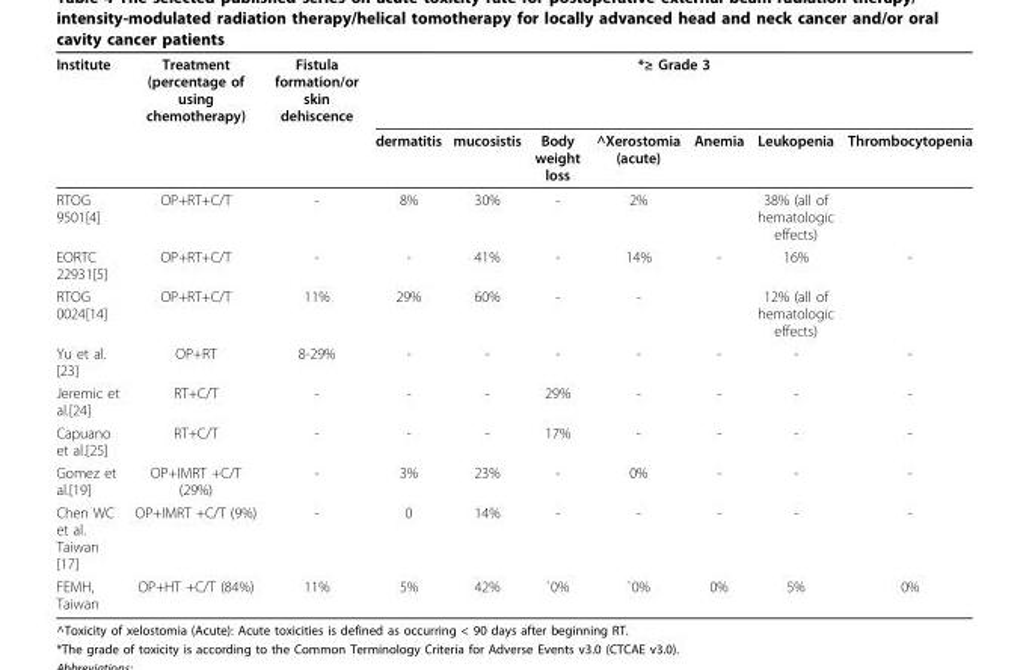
<table><thead><tr><td rowspan="2">Institute</td><td rowspan="2">Treatment (percentage of using chemotherapy)</td><td rowspan="2">Fistula formation/or skin dehiscence</td><td colspan="7">*≥ Grade 3</td></tr><tr><td>dermatitis</td><td>mucosistis</td><td>Body weight loss</td><td>^Xerostomia (acute)</td><td>Anemia</td><td>Leukopenia</td><td>Thrombocytopenia</td></tr></thead><tbody><tr><td>RTOG 9501[4]</td><td>OP+RT+C/T</td><td>-</td><td>8%</td><td>30%</td><td>-</td><td>2%</td><td></td><td>38% (all of hematologic effects)</td><td></td></tr><tr><td>EORTC 22931[5]</td><td>OP+RT+C/T</td><td>-</td><td>-</td><td>41%</td><td>-</td><td>14%</td><td>-</td><td>16%</td><td>-</td></tr><tr><td>RTOG 0024[14]</td><td>OP+RT+C/T</td><td>11%</td><td>29%</td><td>60%</td><td>-</td><td>-</td><td></td><td>12% (all of hematologic effects)</td><td></td></tr><tr><td>Yu et al. [23]</td><td>OP+RT</td><td>8-29%</td><td>-</td><td>-</td><td>-</td><td>-</td><td>-</td><td>-</td><td>-</td></tr><tr><td>Jeremic et al.[24]</td><td>RT+C/T</td><td>-</td><td>-</td><td>-</td><td>29%</td><td>-</td><td>-</td><td>-</td><td>-</td></tr><tr><td>Capuano et al.[25]</td><td>RT+C/T</td><td>-</td><td>-</td><td>-</td><td>17%</td><td>-</td><td>-</td><td>-</td><td>-</td></tr><tr><td>Gomez et al.[19]</td><td>OP+IMRT +C/T (29%)</td><td>-</td><td>3%</td><td>23%</td><td>-</td><td>0%</td><td>-</td><td>-</td><td>-</td></tr><tr><td>Chen WC et al. Taiwan [17]</td><td>OP+IMRT +C/T (9%)</td><td>-</td><td>0</td><td>14%</td><td>-</td><td>-</td><td>-</td><td>-</td><td>-</td></tr><tr><td>FEMH, Taiwan</td><td>OP+HT +C/T (84%)</td><td>11%</td><td>5%</td><td>42%</td><td>`0%</td><td>`0%</td><td>0%</td><td>5%</td><td>0%</td></tr></tbody></table>